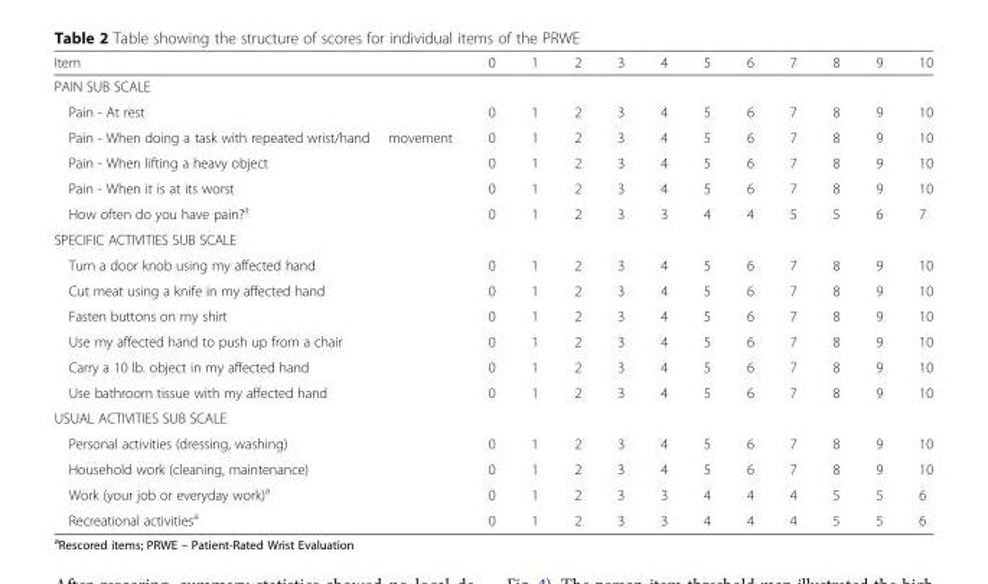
<table><thead><tr><td>Item</td><td>0</td><td>1</td><td>2</td><td>3</td><td>4</td><td>5</td><td>6</td><td>7</td><td>8</td><td>9</td><td>10</td></tr></thead><tbody><tr><td colspan="12">PAIN SUB SCALE</td></tr><tr><td>Pain - At rest</td><td>0</td><td>1</td><td>2</td><td>3</td><td>4</td><td>5</td><td>6</td><td>7</td><td>8</td><td>9</td><td>10</td></tr><tr><td>Pain - When doing a task with repeated wrist/hand movement</td><td>0</td><td>1</td><td>2</td><td>3</td><td>4</td><td>5</td><td>6</td><td>7</td><td>8</td><td>9</td><td>10</td></tr><tr><td>Pain - When lifting a heavy object</td><td>0</td><td>1</td><td>2</td><td>3</td><td>4</td><td>5</td><td>6</td><td>7</td><td>8</td><td>9</td><td>10</td></tr><tr><td>Pain - When it is at its worst</td><td>0</td><td>1</td><td>2</td><td>3</td><td>4</td><td>5</td><td>6</td><td>7</td><td>8</td><td>9</td><td>10</td></tr><tr><td>How often do you have pain?<sup>a</sup></td><td>0</td><td>1</td><td>2</td><td>3</td><td>3</td><td>4</td><td>4</td><td>5</td><td>5</td><td>6</td><td>7</td></tr><tr><td colspan="12">SPECIFIC ACTIVITIES SUB SCALE</td></tr><tr><td>Turn a door knob using my affected hand</td><td>0</td><td>1</td><td>2</td><td>3</td><td>4</td><td>5</td><td>6</td><td>7</td><td>8</td><td>9</td><td>10</td></tr><tr><td>Cut meat using a knife in my affected hand</td><td>0</td><td>1</td><td>2</td><td>3</td><td>4</td><td>5</td><td>6</td><td>7</td><td>8</td><td>9</td><td>10</td></tr><tr><td>Fasten buttons on my shirt</td><td>0</td><td>1</td><td>2</td><td>3</td><td>4</td><td>5</td><td>6</td><td>7</td><td>8</td><td>9</td><td>10</td></tr><tr><td>Use my affected hand to push up from a chair</td><td>0</td><td>1</td><td>2</td><td>3</td><td>4</td><td>5</td><td>6</td><td>7</td><td>8</td><td>9</td><td>10</td></tr><tr><td>Carry a 10 lb. object in my affected hand</td><td>0</td><td>1</td><td>2</td><td>3</td><td>4</td><td>5</td><td>6</td><td>7</td><td>8</td><td>9</td><td>10</td></tr><tr><td>Use bathroom tissue with my affected hand</td><td>0</td><td>1</td><td>2</td><td>3</td><td>4</td><td>5</td><td>6</td><td>7</td><td>8</td><td>9</td><td>10</td></tr><tr><td colspan="12">USUAL ACTIVITIES SUB SCALE</td></tr><tr><td>Personal activities (dressing, washing)</td><td>0</td><td>1</td><td>2</td><td>3</td><td>4</td><td>5</td><td>6</td><td>7</td><td>8</td><td>9</td><td>10</td></tr><tr><td>Household work (cleaning, maintenance)</td><td>0</td><td>1</td><td>2</td><td>3</td><td>4</td><td>5</td><td>6</td><td>7</td><td>8</td><td>9</td><td>10</td></tr><tr><td>Work (your job or everyday work)<sup>a</sup></td><td>0</td><td>1</td><td>2</td><td>3</td><td>3</td><td>4</td><td>4</td><td>4</td><td>5</td><td>5</td><td>6</td></tr><tr><td>Recreational activities<sup>a</sup></td><td>0</td><td>1</td><td>2</td><td>3</td><td>3</td><td>4</td><td>4</td><td>4</td><td>5</td><td>5</td><td>6</td></tr></tbody></table>